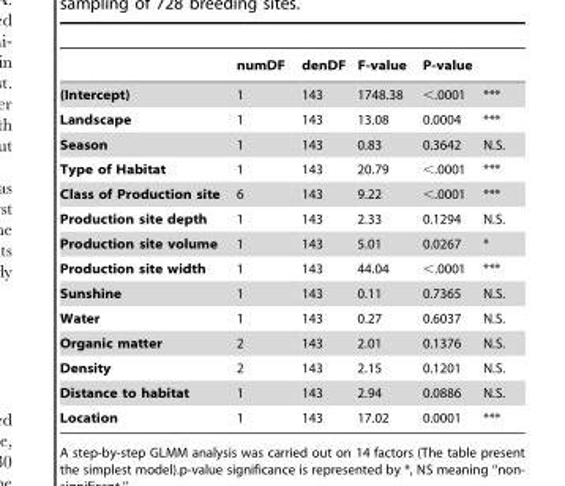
<table><thead><tr><td rowspan="2">(Intercept)</td><td rowspan="2">numDF 1</td><td rowspan="2">denDF 143</td><td rowspan="2">F-value 1748.38</td><td colspan="2">P-value</td></tr><tr><td>&lt;.0001</td><td>***</td></tr></thead><tbody><tr><td>Landscape</td><td>1</td><td>143</td><td>13.08</td><td>0.0004</td><td>***</td></tr><tr><td>Season</td><td>1</td><td>143</td><td>0.83</td><td>0.3642</td><td>N.S.</td></tr><tr><td>Type of Habitat</td><td>1</td><td>143</td><td>20.79</td><td>&lt;.0001</td><td>***</td></tr><tr><td>Class of Production site</td><td>6</td><td>143</td><td>9.22</td><td>&lt;.0001</td><td>***</td></tr><tr><td>Production site depth</td><td>1</td><td>143</td><td>2.33</td><td>0.1294</td><td>N.S.</td></tr><tr><td>Production site volume</td><td>1</td><td>143</td><td>5.01</td><td>0.0267</td><td>*</td></tr><tr><td>Production site width</td><td>1</td><td>143</td><td>44.04</td><td>&lt;.0001</td><td>***</td></tr><tr><td>Sunshine</td><td>1</td><td>143</td><td>0.11</td><td>0.7365</td><td>N.S.</td></tr><tr><td>Water</td><td>1</td><td>143</td><td>0.27</td><td>0.6037</td><td>N.S.</td></tr><tr><td>Organic matter</td><td>2</td><td>143</td><td>2.01</td><td>0.1376</td><td>N.S.</td></tr><tr><td>Density</td><td>2</td><td>143</td><td>2.15</td><td>0.1201</td><td>N.S.</td></tr><tr><td>Distance to habitat</td><td>1</td><td>143</td><td>2.94</td><td>0.0886</td><td>N.S.</td></tr><tr><td>Location</td><td>1</td><td>143</td><td>17.02</td><td>0.0001</td><td>***</td></tr></tbody></table>